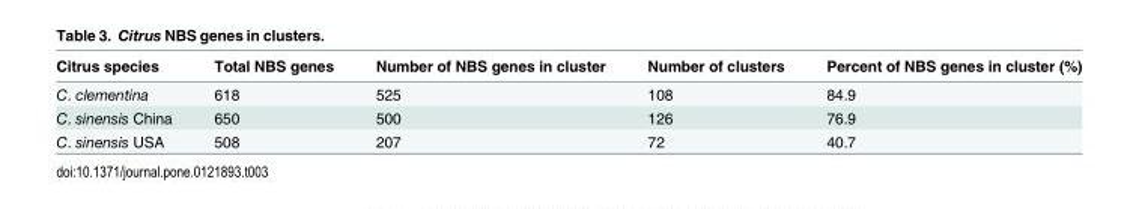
<table><thead><tr><td>Citrus species</td><td>Total NBS genes</td><td>Number of NBS genes in cluster</td><td>Number of clusters</td><td>Percent of NBS genes in cluster (%)</td></tr></thead><tbody><tr><td>C. clementina</td><td>618</td><td>525</td><td>108</td><td>84.9</td></tr><tr><td>C. sinensis China</td><td>650</td><td>500</td><td>126</td><td>76.9</td></tr><tr><td>C. sinensis USA</td><td>508</td><td>207</td><td>72</td><td>40.7</td></tr></tbody></table>